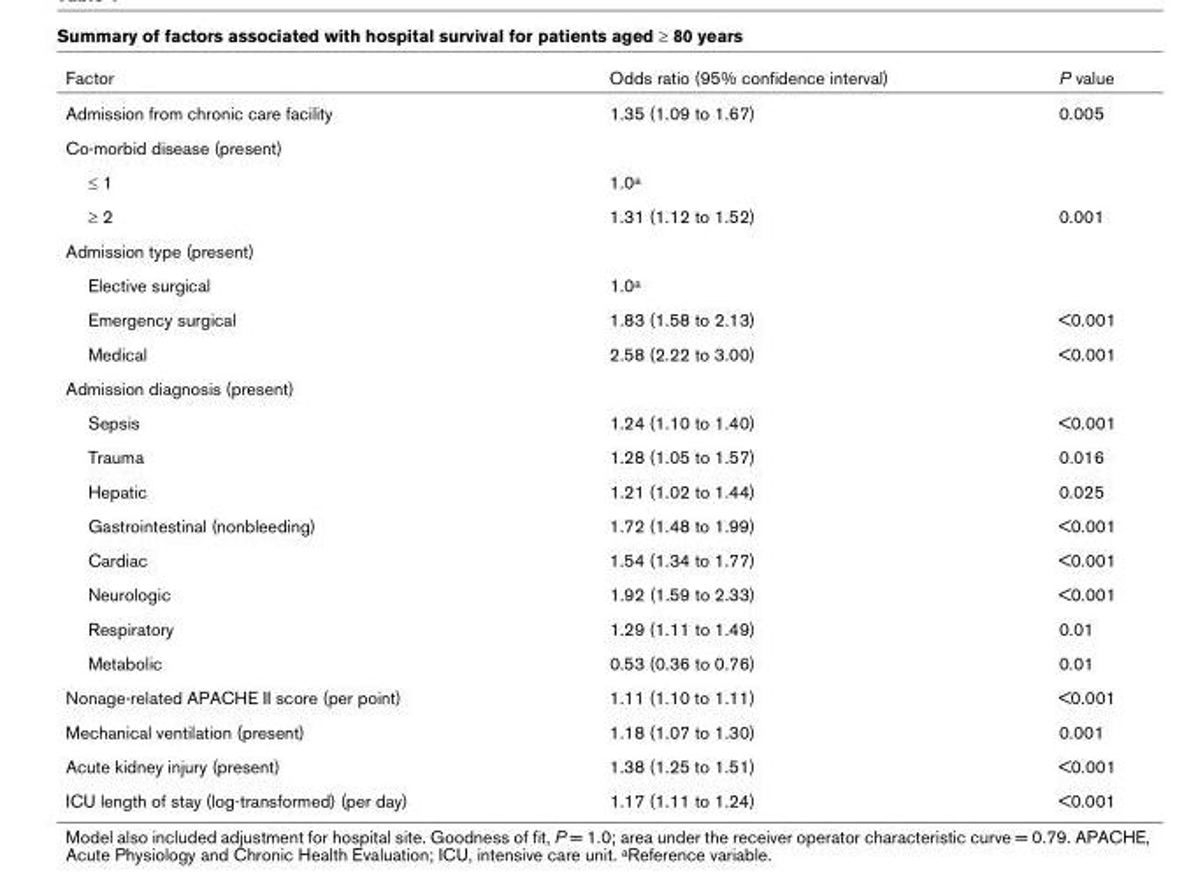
<table><thead><tr><td>Factor</td><td>Odds ratio (95% confidence interval)</td><td>P value</td></tr></thead><tbody><tr><td>Admission from chronic care facility</td><td>1.35 (1.09 to 1.67)</td><td>0.005</td></tr><tr><td colspan="3">Co-morbid disease (present)</td></tr><tr><td>≤ 1</td><td>1.0<sup>a</sup></td><td></td></tr><tr><td>≥ 2</td><td>1.31 (1.12 to 1.52)</td><td>0.001</td></tr><tr><td colspan="3">Admission type (present)</td></tr><tr><td>Elective surgical</td><td>1.0<sup>a</sup></td><td></td></tr><tr><td>Emergency surgical</td><td>1.83 (1.58 to 2.13)</td><td>&lt;0.001</td></tr><tr><td>Medical</td><td>2.58 (2.22 to 3.00)</td><td>&lt;0.001</td></tr><tr><td colspan="3">Admission diagnosis (present)</td></tr><tr><td>Sepsis</td><td>1.24 (1.10 to 1.40)</td><td>&lt;0.001</td></tr><tr><td>Trauma</td><td>1.28 (1.05 to 1.57)</td><td>0.016</td></tr><tr><td>Hepatic</td><td>1.21 (1.02 to 1.44)</td><td>0.025</td></tr><tr><td>Gastrointestinal (nonbleeding)</td><td>1.72 (1.48 to 1.99)</td><td>&lt;0.001</td></tr><tr><td>Cardiac</td><td>1.54 (1.34 to 1.77)</td><td>&lt;0.001</td></tr><tr><td>Neurologic</td><td>1.92 (1.59 to 2.33)</td><td>&lt;0.001</td></tr><tr><td>Respiratory</td><td>1.29 (1.11 to 1.49)</td><td>0.01</td></tr><tr><td>Metabolic</td><td>0.53 (0.36 to 0.76)</td><td>0.01</td></tr><tr><td>Nonage-related APACHE II score (per point)</td><td>1.11 (1.10 to 1.11)</td><td>&lt;0.001</td></tr><tr><td>Mechanical ventilation (present)</td><td>1.18 (1.07 to 1.30)</td><td>0.001</td></tr><tr><td>Acute kidney injury (present)</td><td>1.38 (1.25 to 1.51)</td><td>&lt;0.001</td></tr><tr><td>ICU length of stay (log-transformed) (per day)</td><td>1.17 (1.11 to 1.24)</td><td>&lt;0.001</td></tr></tbody></table>